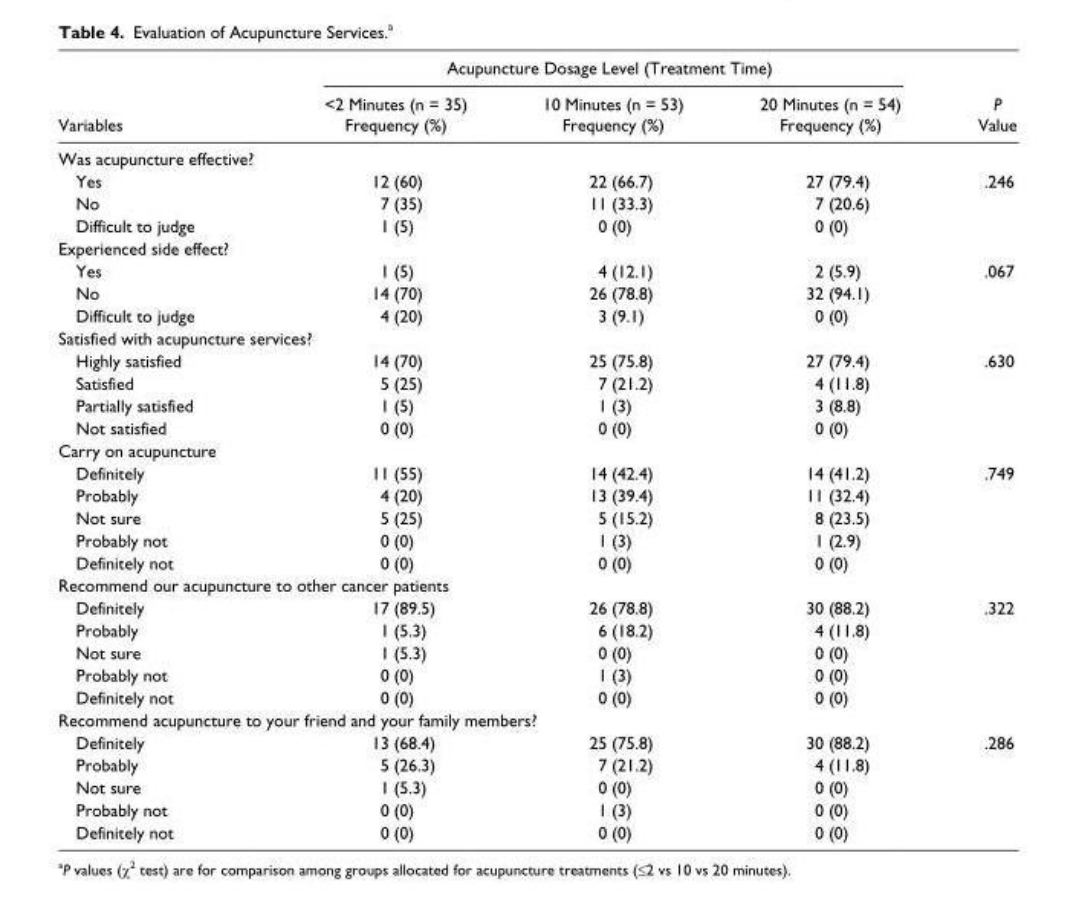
<table><thead><tr><td rowspan="2">Variables</td><td colspan="3">Acupuncture Dosage Level (Treatment Time)</td><td rowspan="2">P Value</td></tr><tr><td>&lt;2 Minutes (n = 35) Frequency (%)</td><td>10 Minutes (n = 53) Frequency (%)</td><td>20 Minutes (n = 54) Frequency (%)</td></tr></thead><tbody><tr><td colspan="5">Was acupuncture effective?</td></tr><tr><td>Yes</td><td>12 (60)</td><td>22 (66.7)</td><td>27 (79.4)</td><td>.246</td></tr><tr><td>No</td><td>7 (35)</td><td>11 (33.3)</td><td>7 (20.6)</td><td></td></tr><tr><td>Difficult to judge</td><td>1 (5)</td><td>0 (0)</td><td>0 (0)</td><td></td></tr><tr><td colspan="5">Experienced side effect?</td></tr><tr><td>Yes</td><td>1 (5)</td><td>4 (12.1)</td><td>2 (5.9)</td><td>.067</td></tr><tr><td>No</td><td>14 (70)</td><td>26 (78.8)</td><td>32 (94.1)</td><td></td></tr><tr><td>Difficult to judge</td><td>4 (20)</td><td>3 (9.1)</td><td>0 (0)</td><td></td></tr><tr><td colspan="5">Satisfied with acupuncture services?</td></tr><tr><td>Highly satisfied</td><td>14 (70)</td><td>25 (75.8)</td><td>27 (79.4)</td><td>.630</td></tr><tr><td>Satisfied</td><td>5 (25)</td><td>7 (21.2)</td><td>4 (11.8)</td><td></td></tr><tr><td>Partially satisfied</td><td>1 (5)</td><td>1 (3)</td><td>3 (8.8)</td><td></td></tr><tr><td>Not satisfied</td><td>0 (0)</td><td>0 (0)</td><td>0 (0)</td><td></td></tr><tr><td colspan="5">Carry on acupuncture</td></tr><tr><td>Definitely</td><td>11 (55)</td><td>14 (42.4)</td><td>14 (41.2)</td><td>.749</td></tr><tr><td>Probably</td><td>4 (20)</td><td>13 (39.4)</td><td>11 (32.4)</td><td></td></tr><tr><td>Not sure</td><td>5 (25)</td><td>5 (15.2)</td><td>8 (23.5)</td><td></td></tr><tr><td>Probably not</td><td>0 (0)</td><td>1 (3)</td><td>1 (2.9)</td><td></td></tr><tr><td>Definitely not</td><td>0 (0)</td><td>0 (0)</td><td>0 (0)</td><td></td></tr><tr><td colspan="5">Recommend our acupuncture to other cancer patients</td></tr><tr><td>Definitely</td><td>17 (89.5)</td><td>26 (78.8)</td><td>30 (88.2)</td><td>.322</td></tr><tr><td>Probably</td><td>1 (5.3)</td><td>6 (18.2)</td><td>4 (11.8)</td><td></td></tr><tr><td>Not sure</td><td>1 (5.3)</td><td>0 (0)</td><td>0 (0)</td><td></td></tr><tr><td>Probably not</td><td>0 (0)</td><td>1 (3)</td><td>0 (0)</td><td></td></tr><tr><td>Definitely not</td><td>0 (0)</td><td>0 (0)</td><td>0 (0)</td><td></td></tr><tr><td colspan="5">Recommend acupuncture to your friend and your family members?</td></tr><tr><td>Definitely</td><td>13 (68.4)</td><td>25 (75.8)</td><td>30 (88.2)</td><td>.286</td></tr><tr><td>Probably</td><td>5 (26.3)</td><td>7 (21.2)</td><td>4 (11.8)</td><td></td></tr><tr><td>Not sure</td><td>1 (5.3)</td><td>0 (0)</td><td>0 (0)</td><td></td></tr><tr><td>Probably not</td><td>0 (0)</td><td>1 (3)</td><td>0 (0)</td><td></td></tr><tr><td>Definitely not</td><td>0 (0)</td><td>0 (0)</td><td>0 (0)</td><td></td></tr></tbody></table>